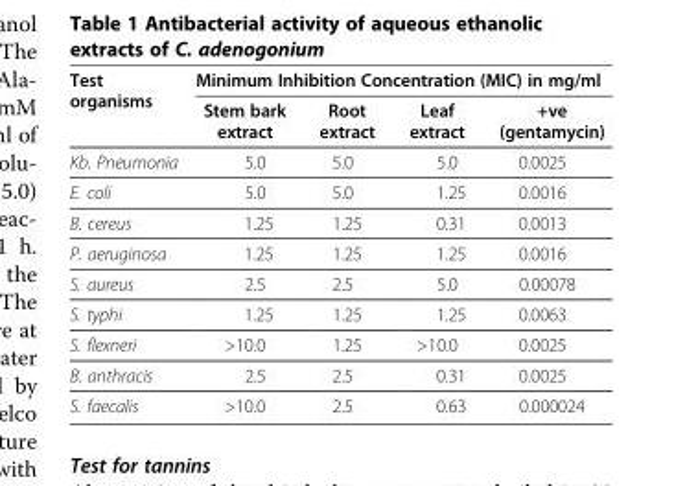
<table><thead><tr><td rowspan="2">Test organisms</td><td colspan="4">Minimum Inhibition Concentration (MIC) in mg/ml</td></tr><tr><td>Stem bark extract</td><td>Root extract</td><td>Leaf extract</td><td>+ve (gentamycin)</td></tr></thead><tbody><tr><td>Kb. Pneumonia</td><td>5.0</td><td>5.0</td><td>5.0</td><td>0.0025</td></tr><tr><td>E. coli</td><td>5.0</td><td>5.0</td><td>1.25</td><td>0.0016</td></tr><tr><td>B. cereus</td><td>1.25</td><td>1.25</td><td>0.31</td><td>0.0013</td></tr><tr><td>P. aeruginosa</td><td>1.25</td><td>1.25</td><td>1.25</td><td>0.0016</td></tr><tr><td>S. aureus</td><td>2.5</td><td>2.5</td><td>5.0</td><td>0.00078</td></tr><tr><td>S. typhi</td><td>1.25</td><td>1.25</td><td>1.25</td><td>0.0063</td></tr><tr><td>S. flexneri</td><td>&gt;10.0</td><td>1.25</td><td>&gt;10.0</td><td>0.0025</td></tr><tr><td>B. anthracis</td><td>2.5</td><td>2.5</td><td>0.31</td><td>0.0025</td></tr><tr><td>S. faecalis</td><td>&gt;10.0</td><td>2.5</td><td>0.63</td><td>0.000024</td></tr></tbody></table>